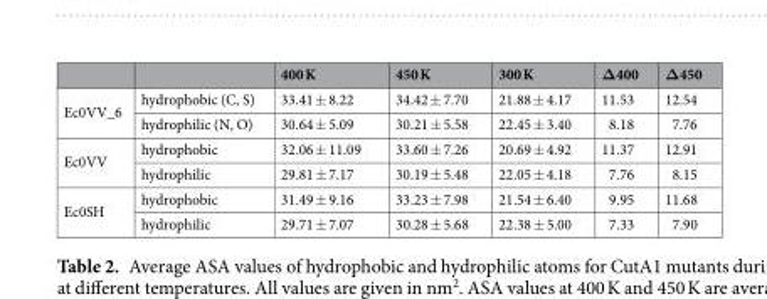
<table><thead><tr><td></td><td></td><td>400 K</td><td>450 K</td><td>300 K</td><td>Δ400</td><td>Δ450</td></tr></thead><tbody><tr><td rowspan="2">Ec0VV_6</td><td>hydrophobic (C, S)</td><td>33.41 ± 8.22</td><td>34.42 ± 7.70</td><td>21.88 ± 4.17</td><td>11.53</td><td>12.54</td></tr><tr><td>hydrophilic (N, O)</td><td>30.64 ± 5.09</td><td>30.21 ± 5.58</td><td>22.45 ± 3.40</td><td>8.18</td><td>7.76</td></tr><tr><td rowspan="2">Ec0VV</td><td>hydrophobic</td><td>32.06 ± 11.09</td><td>33.60 ± 7.26</td><td>20.69 ± 4.92</td><td>11.37</td><td>12.91</td></tr><tr><td>hydrophilic</td><td>29.81 ± 7.17</td><td>30.19 ± 5.48</td><td>22.05 ± 4.18</td><td>7.76</td><td>8.15</td></tr><tr><td rowspan="2">Ec0SH</td><td>hydrophobic</td><td>31.49 ± 9.16</td><td>33.23 ± 7.98</td><td>21.54 ± 6.40</td><td>9.95</td><td>11.68</td></tr><tr><td>hydrophilic</td><td>29.71 ± 7.07</td><td>30.28 ± 5.68</td><td>22.38 ± 5.00</td><td>7.33</td><td>7.90</td></tr></tbody></table>